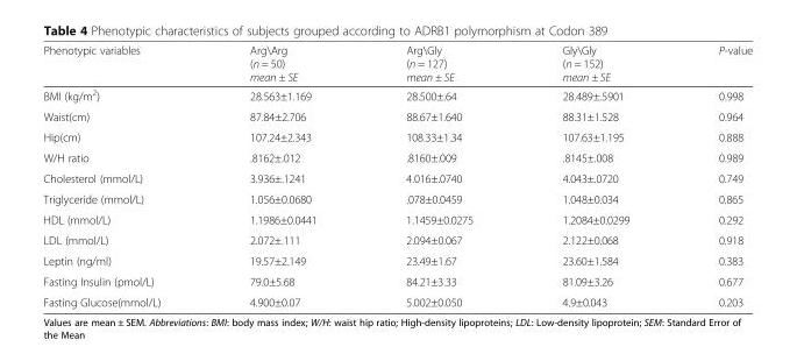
<table><thead><tr><td>Phenotypic variables</td><td>Arg\Arg (n = 50) mean ± SE</td><td>Arg\Gly (n = 127) mean ± SE</td><td>Gly\Gly (n = 152) mean ± SE</td><td>P-value</td></tr></thead><tbody><tr><td>BMI (kg/m<sup>2</sup>)</td><td>28.563±1.169</td><td>28.500±.64</td><td>28.489±.5901</td><td>0.998</td></tr><tr><td>Waist(cm)</td><td>87.84±2.706</td><td>88.67±1.640</td><td>88.31±1.528</td><td>0.964</td></tr><tr><td>Hip(cm)</td><td>107.24±2.343</td><td>108.33±1.34</td><td>107.63±1.195</td><td>0.888</td></tr><tr><td>W/H ratio</td><td>.8162±.012</td><td>.8160±.009</td><td>.8145±.008</td><td>0.989</td></tr><tr><td>Cholesterol (mmol/L)</td><td>3.936±.1241</td><td>4.016±.0740</td><td>4.043±.0720</td><td>0.749</td></tr><tr><td>Triglyceride (mmol/L)</td><td>1.056±0.0680</td><td>.078±0.0459</td><td>1.048±0.034</td><td>0.865</td></tr><tr><td>HDL (mmol/L)</td><td>1.1986±0.0441</td><td>1.1459±0.0275</td><td>1.2084±0.0299</td><td>0.292</td></tr><tr><td>LDL (mmol/L)</td><td>2.072±.111</td><td>2.094±0.067</td><td>2.122±0.068</td><td>0.918</td></tr><tr><td>Leptin (ng/ml)</td><td>19.57±2.149</td><td>23.49±1.67</td><td>23.60±1.584</td><td>0.383</td></tr><tr><td>Fasting Insulin (pmol/L)</td><td>79.0±5.68</td><td>84.21±3.33</td><td>81.09±3.26</td><td>0.677</td></tr><tr><td>Fasting Glucose(mmol/L)</td><td>4.900±0.07</td><td>5.002±0.050</td><td>4.9±0.043</td><td>0.203</td></tr></tbody></table>